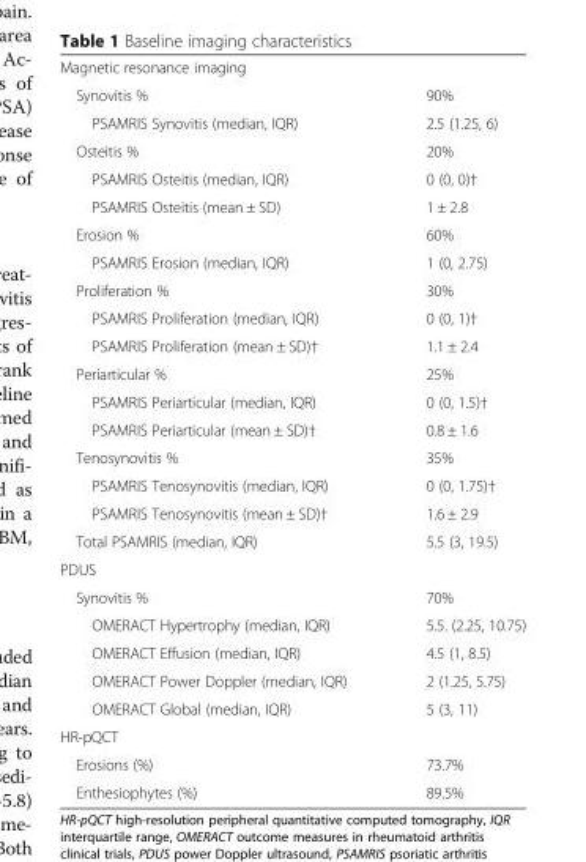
<table><tbody><tr><td colspan="2">Magnetic resonance imaging</td></tr><tr><td>Synovitis %</td><td>90%</td></tr><tr><td>PSAMRIS Synovitis (median, IQR)</td><td>2.5 (1.25, 6)</td></tr><tr><td>Osteitis %</td><td>20%</td></tr><tr><td>PSAMRIS Osteitis (median, IQR)</td><td>0 (0, 0)†</td></tr><tr><td>PSAMRIS Osteitis (mean ± SD)</td><td>1 ± 2.8</td></tr><tr><td>Erosion %</td><td>60%</td></tr><tr><td>PSAMRIS Erosion (median, IQR)</td><td>1 (0, 2.75)</td></tr><tr><td>Proliferation %</td><td>30%</td></tr><tr><td>PSAMRIS Proliferation (median, IQR)</td><td>0 (0, 1)†</td></tr><tr><td>PSAMRIS Proliferation (mean ± SD)†</td><td>1.1 ± 2.4</td></tr><tr><td>Periarticular %</td><td>25%</td></tr><tr><td>PSAMRIS Periarticular (median, IQR)</td><td>0 (0, 1.5)†</td></tr><tr><td>PSAMRIS Periarticular (mean ± SD)†</td><td>0.8 ± 1.6</td></tr><tr><td>Tenosynovitis %</td><td>35%</td></tr><tr><td>PSAMRIS Tenosynovitis (median, IQR)</td><td>0 (0, 1.75)†</td></tr><tr><td>PSAMRIS Tenosynovitis (mean ± SD)†</td><td>1.6 ± 2.9</td></tr><tr><td>Total PSAMRIS (median, IQR)</td><td>5.5 (3, 19.5)</td></tr><tr><td colspan="2">PDUS</td></tr><tr><td>Synovitis %</td><td>70%</td></tr><tr><td>OMERACT Hypertrophy (median, IQR)</td><td>5.5. (2.25, 10.75)</td></tr><tr><td>OMERACT Effusion (median, IQR)</td><td>4.5 (1, 8.5)</td></tr><tr><td>OMERACT Power Doppler (median, IQR)</td><td>2 (1.25, 5.75)</td></tr><tr><td>OMERACT Global (median, IQR)</td><td>5 (3, 11)</td></tr><tr><td colspan="2">HR-pQCT</td></tr><tr><td>Erosions (%)</td><td>73.7%</td></tr><tr><td>Enthesiophytes (%)</td><td>89.5%</td></tr></tbody></table>